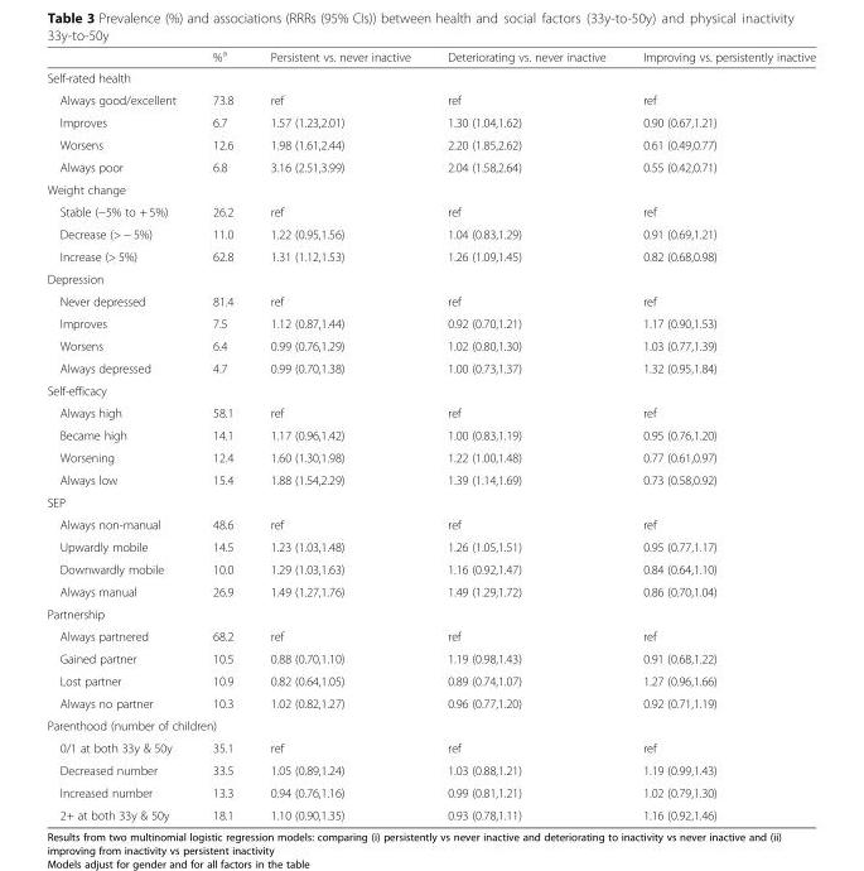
<table><thead><tr><td></td><td>%<sup>a</sup></td><td>Persistent vs. never inactive</td><td>Deteriorating vs. never inactive</td><td>Improving vs. persistently inactive</td></tr></thead><tbody><tr><td colspan="5">Self-rated health</td></tr><tr><td>Always good/excellent</td><td>73.8</td><td>ref</td><td>ref</td><td>ref</td></tr><tr><td>Improves</td><td>6.7</td><td>1.57 (1.23,2.01)</td><td>1.30 (1.04,1.62)</td><td>0.90 (0.67,1.21)</td></tr><tr><td>Worsens</td><td>12.6</td><td>1.98 (1.61,2.44)</td><td>2.20 (1.85,2.62)</td><td>0.61 (0.49,0.77)</td></tr><tr><td>Always poor</td><td>6.8</td><td>3.16 (2.51,3.99)</td><td>2.04 (1.58,2.64)</td><td>0.55 (0.42,0.71)</td></tr><tr><td colspan="5">Weight change</td></tr><tr><td>Stable (−5% to + 5%)</td><td>26.2</td><td>ref</td><td>ref</td><td>ref</td></tr><tr><td>Decrease (&gt; − 5%)</td><td>11.0</td><td>1.22 (0.95,1.56)</td><td>1.04 (0.83,1.29)</td><td>0.91 (0.69,1.21)</td></tr><tr><td>Increase (&gt; 5%)</td><td>62.8</td><td>1.31 (1.12,1.53)</td><td>1.26 (1.09,1.45)</td><td>0.82 (0.68,0.98)</td></tr><tr><td colspan="5">Depression</td></tr><tr><td>Never depressed</td><td>81.4</td><td>ref</td><td>ref</td><td>ref</td></tr><tr><td>Improves</td><td>7.5</td><td>1.12 (0.87,1.44)</td><td>0.92 (0.70,1.21)</td><td>1.17 (0.90,1.53)</td></tr><tr><td>Worsens</td><td>6.4</td><td>0.99 (0.76,1.29)</td><td>1.02 (0.80,1.30)</td><td>1.03 (0.77,1.39)</td></tr><tr><td>Always depressed</td><td>4.7</td><td>0.99 (0.70,1.38)</td><td>1.00 (0.73,1.37)</td><td>1.32 (0.95,1.84)</td></tr><tr><td colspan="5">Self-efficacy</td></tr><tr><td>Always high</td><td>58.1</td><td>ref</td><td>ref</td><td>ref</td></tr><tr><td>Became high</td><td>14.1</td><td>1.17 (0.96,1.42)</td><td>1.00 (0.83,1.19)</td><td>0.95 (0.76,1.20)</td></tr><tr><td>Worsening</td><td>12.4</td><td>1.60 (1.30,1.98)</td><td>1.22 (1.00,1.48)</td><td>0.77 (0.61,0.97)</td></tr><tr><td>Always low</td><td>15.4</td><td>1.88 (1.54,2.29)</td><td>1.39 (1.14,1.69)</td><td>0.73 (0.58,0.92)</td></tr><tr><td colspan="5">SEP</td></tr><tr><td>Always non-manual</td><td>48.6</td><td>ref</td><td>ref</td><td>ref</td></tr><tr><td>Upwardly mobile</td><td>14.5</td><td>1.23 (1.03,1.48)</td><td>1.26 (1.05,1.51)</td><td>0.95 (0.77,1.17)</td></tr><tr><td>Downwardly mobile</td><td>10.0</td><td>1.29 (1.03,1.63)</td><td>1.16 (0.92,1.47)</td><td>0.84 (0.64,1.10)</td></tr><tr><td>Always manual</td><td>26.9</td><td>1.49 (1.27,1.76)</td><td>1.49 (1.29,1.72)</td><td>0.86 (0.70,1.04)</td></tr><tr><td colspan="5">Partnership</td></tr><tr><td>Always partnered</td><td>68.2</td><td>ref</td><td>ref</td><td>ref</td></tr><tr><td>Gained partner</td><td>10.5</td><td>0.88 (0.70,1.10)</td><td>1.19 (0.98,1.43)</td><td>0.91 (0.68,1.22)</td></tr><tr><td>Lost partner</td><td>10.9</td><td>0.82 (0.64,1.05)</td><td>0.89 (0.74,1.07)</td><td>1.27 (0.96,1.66)</td></tr><tr><td>Always no partner</td><td>10.3</td><td>1.02 (0.82,1.27)</td><td>0.96 (0.77,1.20)</td><td>0.92 (0.71,1.19)</td></tr><tr><td colspan="5">Parenthood (number of children)</td></tr><tr><td>0/1 at both 33y &amp; 50y</td><td>35.1</td><td>ref</td><td>ref</td><td>ref</td></tr><tr><td>Decreased number</td><td>33.5</td><td>1.05 (0.89,1.24)</td><td>1.03 (0.88,1.21)</td><td>1.19 (0.99,1.43)</td></tr><tr><td>Increased number</td><td>13.3</td><td>0.94 (0.76,1.16)</td><td>0.99 (0.81,1.21)</td><td>1.02 (0.79,1.30)</td></tr><tr><td>2+ at both 33y &amp; 50y</td><td>18.1</td><td>1.10 (0.90,1.35)</td><td>0.93 (0.78,1.11)</td><td>1.16 (0.92,1.46)</td></tr></tbody></table>